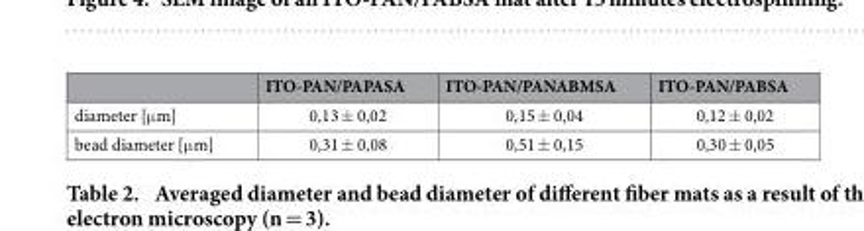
<table><thead><tr><td></td><td>ITO-PAN/PAPASA</td><td>ITO-PAN/PANABMSA</td><td>ITO-PAN/PABSA</td></tr></thead><tbody><tr><td>diameter [μ m]</td><td>0,13 ± 0,02</td><td>0,15 ± 0,04</td><td>0,12 ± 0,02</td></tr><tr><td>bead diameter [μ m]</td><td>0,31 ± 0,08</td><td>0,51 ± 0,15</td><td>0,30 ± 0,05</td></tr></tbody></table>